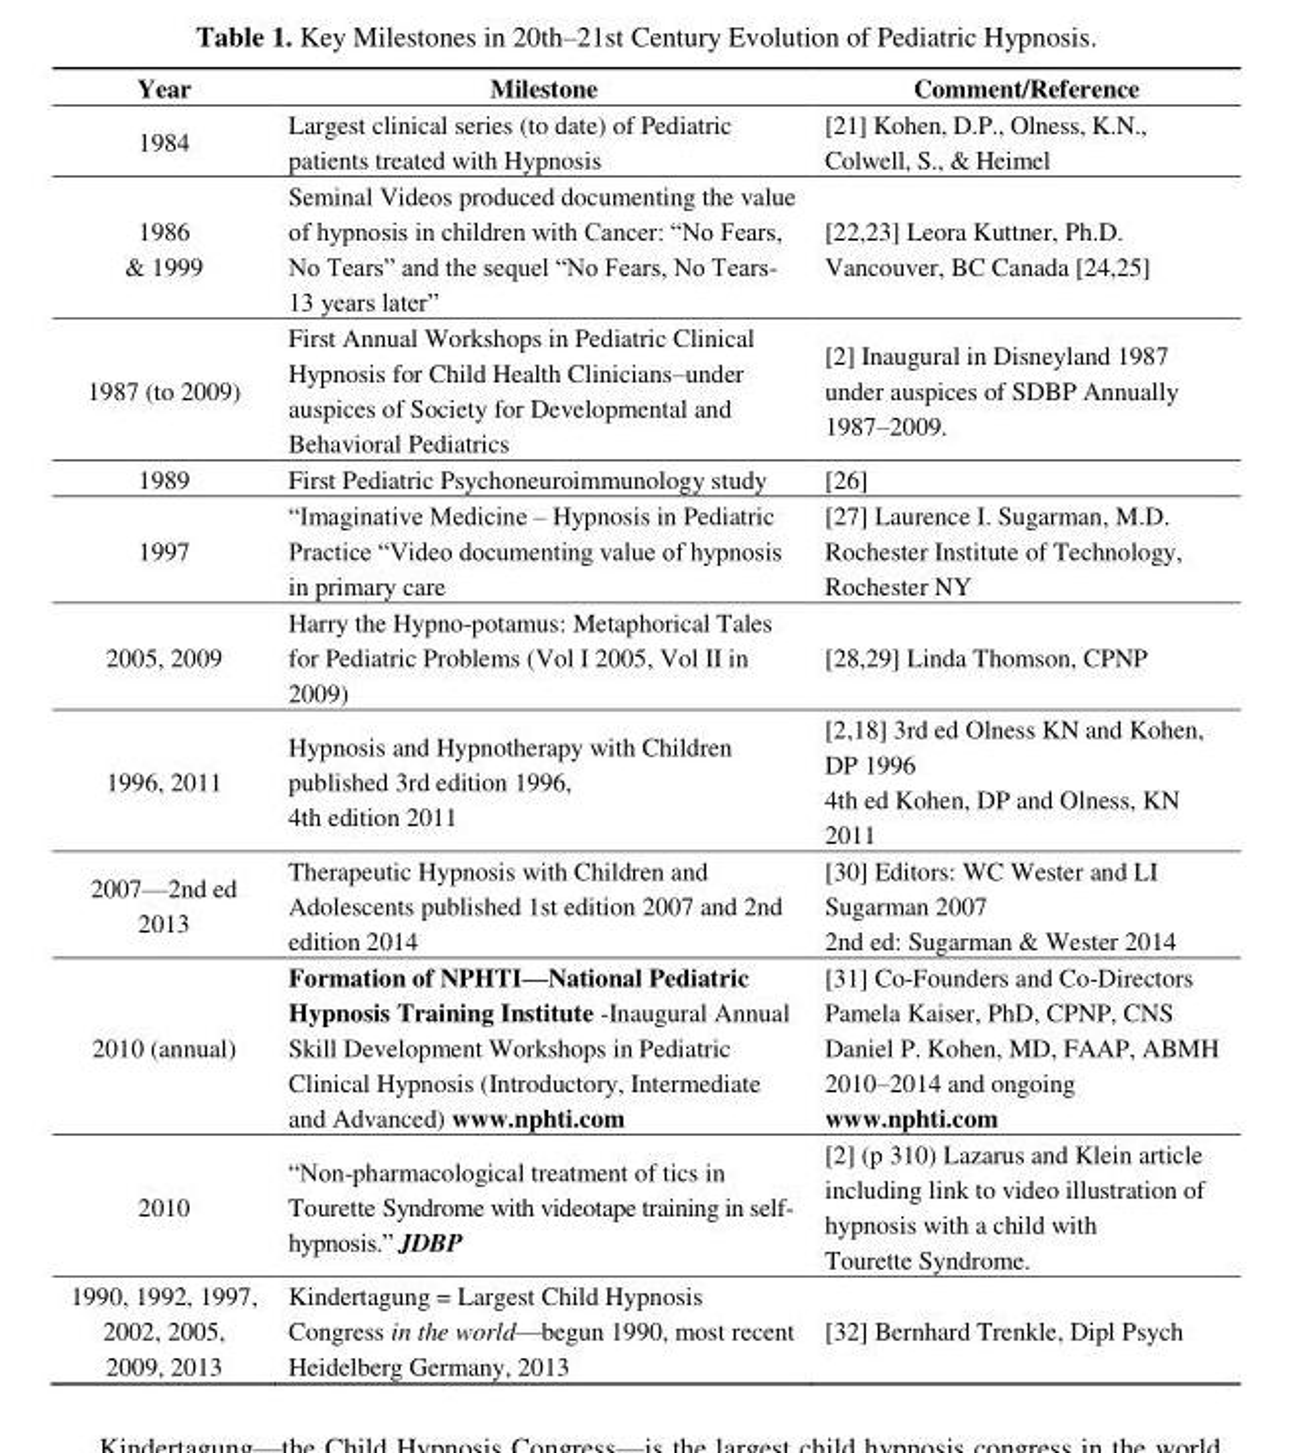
<table><thead><tr><td>Year</td><td>Milestone</td><td>Comment/Reference</td></tr></thead><tbody><tr><td>1984</td><td>Largest clinical series (to date) of Pediatric patients treated with Hypnosis</td><td>[21] Kohen, D.P., Olness, K.N., Colwell, S., &amp; Heimel</td></tr><tr><td>1986 &amp; 1999</td><td>Seminal Videos produced documenting the value of hypnosis in children with Cancer: ―No Fears, No Tears‖ and the sequel ―No Fears, No Tears- 13 years later‖</td><td>[22,23] Leora Kuttner, Ph.D. Vancouver, BC Canada [24,25]</td></tr><tr><td>1987 (to 2009)</td><td>First Annual Workshops in Pediatric Clinical Hypnosis for Child Health Clinicians–under auspices of Society for Developmental and Behavioral Pediatrics</td><td>[2] Inaugural in Disneyland 1987 under auspices of SDBP Annually 1987–2009.</td></tr><tr><td>1989</td><td>First Pediatric Psychoneuroimmunology study</td><td>[26]</td></tr><tr><td>1997</td><td>―Imaginative Medicine – Hypnosis in Pediatric Practice ―Video documenting value of hypnosis in primary care</td><td>[27] Laurence I. Sugarman, M.D. Rochester Institute of Technology, Rochester NY</td></tr><tr><td>2005, 2009</td><td>Harry the Hypno-potamus: Metaphorical Tales for Pediatric Problems (Vol I 2005, Vol II in 2009)</td><td>[28,29] Linda Thomson, CPNP</td></tr><tr><td>1996, 2011</td><td>Hypnosis and Hypnotherapy with Children published 3rd edition 1996, 4th edition 2011</td><td>[2,18] 3rd ed Olness KN and Kohen, DP 1996 4th ed Kohen, DP and Olness, KN 2011</td></tr><tr><td>2007—2nd ed 2013</td><td>Therapeutic Hypnosis with Children and Adolescents published 1st edition 2007 and 2nd edition 2014</td><td>[30] Editors: WC Wester and LI Sugarman 2007 2nd ed: Sugarman &amp; Wester 2014</td></tr><tr><td>2010 (annual)</td><td>Formation of NPHTI—National Pediatric Hypnosis Training Institute -Inaugural Annual Skill Development Workshops in Pediatric Clinical Hypnosis (Introductory, Intermediate and Advanced) www.nphti.com</td><td>[31] Co-Founders and Co-Directors Pamela Kaiser, PhD, CPNP, CNS Daniel P. Kohen, MD, FAAP, ABMH 2010–2014 and ongoing www.nphti.com</td></tr><tr><td>2010</td><td>―Non-pharmacological treatment of tics in Tourette Syndrome with videotape training in self- hypnosis.‖ JDBP</td><td>[2] (p 310) Lazarus and Klein article including link to video illustration of hypnosis with a child with Tourette Syndrome.</td></tr><tr><td>1990, 1992, 1997, 2002, 2005, 2009, 2013</td><td>Kindertagung = Largest Child Hypnosis Congress in the world—begun 1990, most recent Heidelberg Germany, 2013</td><td>[32] Bernhard Trenkle, Dipl Psych</td></tr></tbody></table>